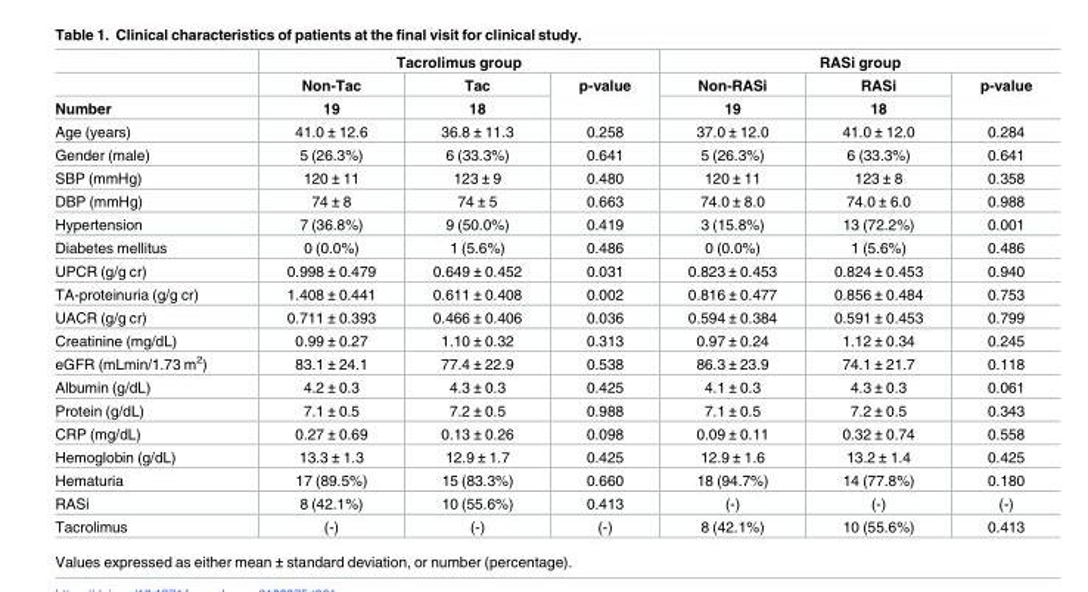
<table><thead><tr><td rowspan="3">Number</td><td colspan="3">Tacrolimus group</td><td colspan="3">RASi group</td></tr><tr><td rowspan="2">Non-Tac 19</td><td rowspan="2">Tac 18</td><td rowspan="2">p-value</td><td rowspan="2">Non-RASi 19</td><td rowspan="2">RASi 18</td><td rowspan="2">p-value</td></tr><tr></tr></thead><tbody><tr><td>Age (years)</td><td>41.0 ± 12.6</td><td>36.8 ± 11.3</td><td>0.258</td><td>37.0 ± 12.0</td><td>41.0 ± 12.0</td><td>0.284</td></tr><tr><td>Gender (male)</td><td>5 (26.3%)</td><td>6 (33.3%)</td><td>0.641</td><td>5 (26.3%)</td><td>6 (33.3%)</td><td>0.641</td></tr><tr><td>SBP (mmHg)</td><td>120 ± 11</td><td>123 ± 9</td><td>0.480</td><td>120 ± 11</td><td>123 ± 8</td><td>0.358</td></tr><tr><td>DBP (mmHg)</td><td>74 ± 8</td><td>74 ± 5</td><td>0.663</td><td>74.0 ± 8.0</td><td>74.0 ± 6.0</td><td>0.988</td></tr><tr><td>Hypertension</td><td>7 (36.8%)</td><td>9 (50.0%)</td><td>0.419</td><td>3 (15.8%)</td><td>13 (72.2%)</td><td>0.001</td></tr><tr><td>Diabetes mellitus</td><td>0 (0.0%)</td><td>1 (5.6%)</td><td>0.486</td><td>0 (0.0%)</td><td>1 (5.6%)</td><td>0.486</td></tr><tr><td>UPCR (g/g cr)</td><td>0.998 ± 0.479</td><td>0.649 ± 0.452</td><td>0.031</td><td>0.823 ± 0.453</td><td>0.824 ± 0.453</td><td>0.940</td></tr><tr><td>TA-proteinuria (g/g cr)</td><td>1.408 ± 0.441</td><td>0.611 ± 0.408</td><td>0.002</td><td>0.816 ± 0.477</td><td>0.856 ± 0.484</td><td>0.753</td></tr><tr><td>UACR (g/g cr)</td><td>0.711 ± 0.393</td><td>0.466 ± 0.406</td><td>0.036</td><td>0.594 ± 0.384</td><td>0.591 ± 0.453</td><td>0.799</td></tr><tr><td>Creatinine (mg/dL)</td><td>0.99 ± 0.27</td><td>1.10 ± 0.32</td><td>0.313</td><td>0.97 ± 0.24</td><td>1.12 ± 0.34</td><td>0.245</td></tr><tr><td>eGFR (mLmin/1.73 m<sup>2</sup>)</td><td>83.1 ± 24.1</td><td>77.4 ± 22.9</td><td>0.538</td><td>86.3 ± 23.9</td><td>74.1 ± 21.7</td><td>0.118</td></tr><tr><td>Albumin (g/dL)</td><td>4.2 ± 0.3</td><td>4.3 ± 0.3</td><td>0.425</td><td>4.1 ± 0.3</td><td>4.3 ± 0.3</td><td>0.061</td></tr><tr><td>Protein (g/dL)</td><td>7.1 ± 0.5</td><td>7.2 ± 0.5</td><td>0.988</td><td>7.1 ± 0.5</td><td>7.2 ± 0.5</td><td>0.343</td></tr><tr><td>CRP (mg/dL)</td><td>0.27 ± 0.69</td><td>0.13 ± 0.26</td><td>0.098</td><td>0.09 ± 0.11</td><td>0.32 ± 0.74</td><td>0.558</td></tr><tr><td>Hemoglobin (g/dL)</td><td>13.3 ± 1.3</td><td>12.9 ± 1.7</td><td>0.425</td><td>12.9 ± 1.6</td><td>13.2 ± 1.4</td><td>0.425</td></tr><tr><td>Hematuria</td><td>17 (89.5%)</td><td>15 (83.3%)</td><td>0.660</td><td>18 (94.7%)</td><td>14 (77.8%)</td><td>0.180</td></tr><tr><td>RASi</td><td>8 (42.1%)</td><td>10 (55.6%)</td><td>0.413</td><td>(-)</td><td>(-)</td><td>(-)</td></tr><tr><td>Tacrolimus</td><td>(-)</td><td>(-)</td><td>(-)</td><td>8 (42.1%)</td><td>10 (55.6%)</td><td>0.413</td></tr></tbody></table>